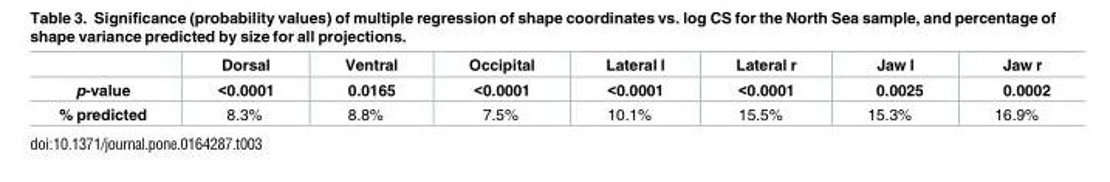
<table><thead><tr><td></td><td>Dorsal</td><td>Ventral</td><td>Occipital</td><td>Lateral l</td><td>Lateral r</td><td>Jaw l</td><td>Jaw r</td></tr></thead><tbody><tr><td>p-value</td><td>&lt;0.0001</td><td>0.0165</td><td>&lt;0.0001</td><td>&lt;0.0001</td><td>&lt;0.0001</td><td>0.0025</td><td>0.0002</td></tr><tr><td>% predicted</td><td>8.3%</td><td>8.8%</td><td>7.5%</td><td>10.1%</td><td>15.5%</td><td>15.3%</td><td>16.9%</td></tr></tbody></table>